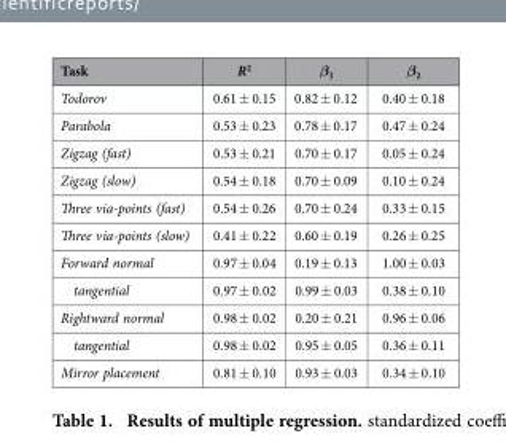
<table><thead><tr><td>Task</td><td>R<sup>2</sup></td><td>β<sub>1</sub></td><td>β<sub>2</sub></td></tr></thead><tbody><tr><td>Todorov</td><td>0.61 ± 0.15</td><td>0.82 ± 0.12</td><td>0.40 ± 0.18</td></tr><tr><td>Parabola</td><td>0.53 ± 0.23</td><td>0.78 ± 0.17</td><td>0.47 ± 0.24</td></tr><tr><td>Zigzag (fast)</td><td>0.53 ± 0.21</td><td>0.70 ± 0.17</td><td>0.05 ± 0.24</td></tr><tr><td>Zigzag (slow)</td><td>0.54 ± 0.18</td><td>0.70 ± 0.09</td><td>0.10 ± 0.24</td></tr><tr><td>Three via-points (fast)</td><td>0.54 ± 0.26</td><td>0.70 ± 0.24</td><td>0.33 ± 0.15</td></tr><tr><td>Three via-points (slow)</td><td>0.41 ± 0.22</td><td>0.60 ± 0.19</td><td>0.26 ± 0.25</td></tr><tr><td>Forward normal</td><td>0.97 ± 0.04</td><td>0.19 ± 0.13</td><td>1.00 ± 0.03</td></tr><tr><td>tangential</td><td>0.97 ± 0.02</td><td>0.99 ± 0.03</td><td>0.38 ± 0.10</td></tr><tr><td>Rightward normal</td><td>0.98 ± 0.02</td><td>0.20 ± 0.21</td><td>0.96 ± 0.06</td></tr><tr><td>tangential</td><td>0.98 ± 0.02</td><td>0.95 ± 0.05</td><td>0.36 ± 0.11</td></tr><tr><td>Mirror placement</td><td>0.81 ± 0.10</td><td>0.93 ± 0.03</td><td>0.34 ± 0.10</td></tr></tbody></table>